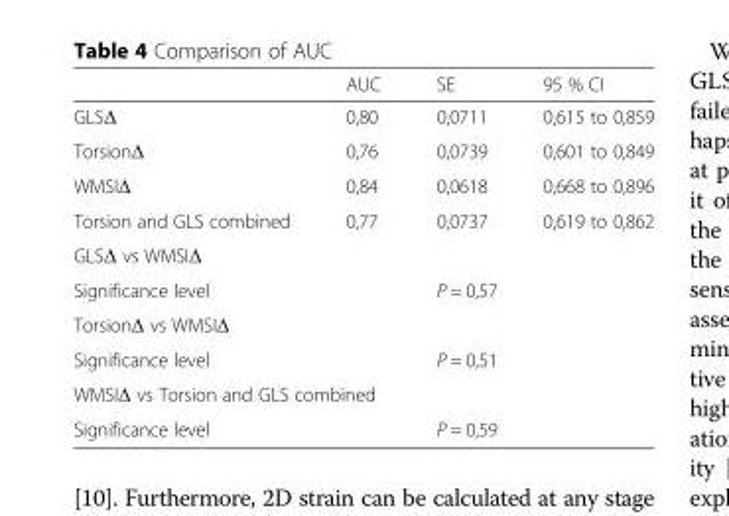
<table><thead><tr><td></td><td>AUC</td><td>SE</td><td>95 % CI</td></tr></thead><tbody><tr><td>GLSΔ</td><td>0,80</td><td>0,0711</td><td>0,615 to 0,859</td></tr><tr><td>ΤorsionΔ</td><td>0,76</td><td>0,0739</td><td>0,601 to 0,849</td></tr><tr><td>WMSIΔ</td><td>0,84</td><td>0,0618</td><td>0,668 to 0,896</td></tr><tr><td>Torsion and GLS combined</td><td>0,77</td><td>0,0737</td><td>0,619 to 0,862</td></tr><tr><td colspan="4">GLSΔ vs WMSIΔ</td></tr><tr><td colspan="2">Significance level</td><td colspan="2">P = 0,57</td></tr><tr><td colspan="4">ΤorsionΔ vs WMSIΔ</td></tr><tr><td colspan="2">Significance level</td><td colspan="2">P = 0,51</td></tr><tr><td colspan="4">WMSIΔ vs Torsion and GLS combined</td></tr><tr><td colspan="2">Significance level</td><td colspan="2">P = 0,59</td></tr></tbody></table>